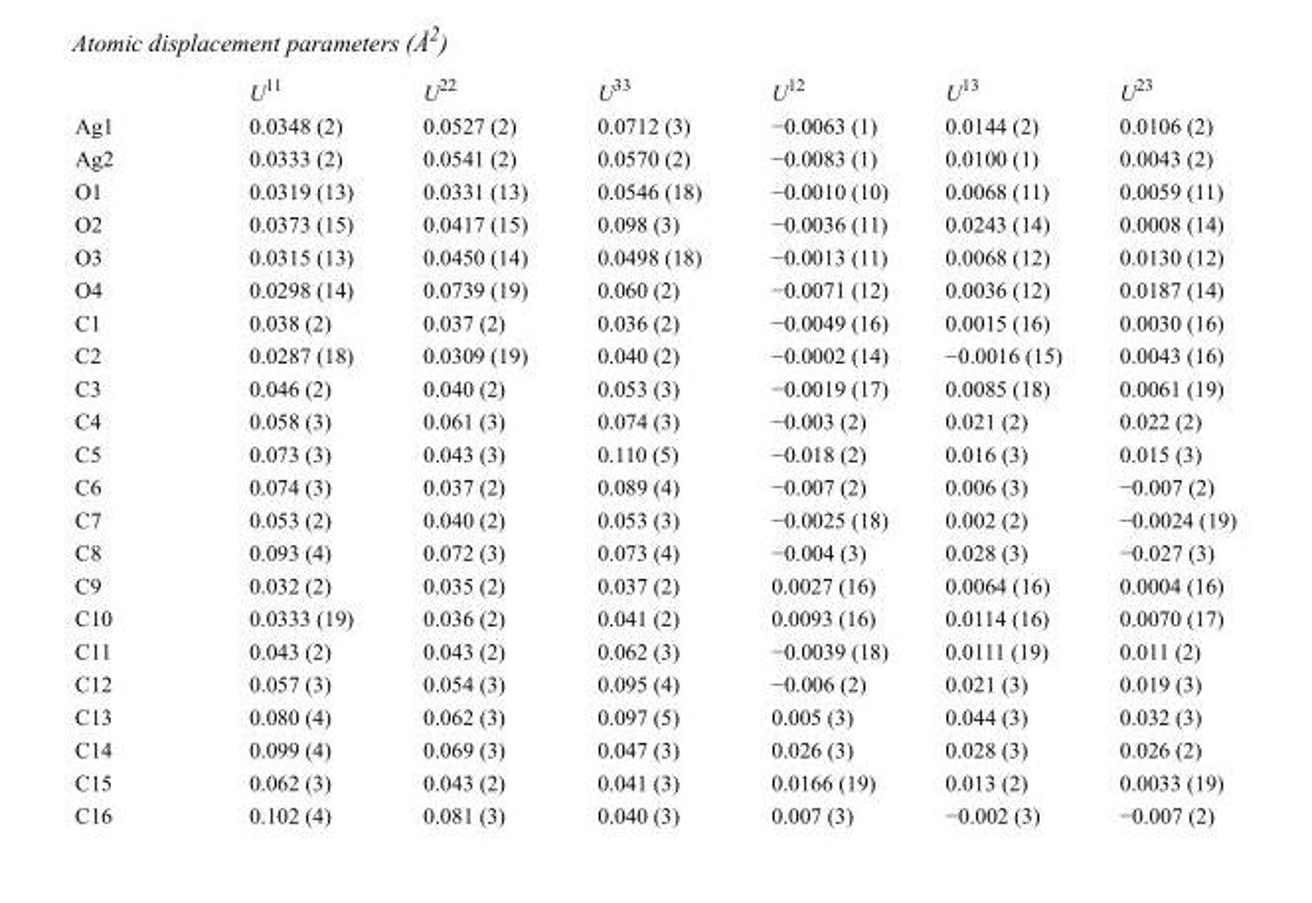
<table><thead><tr><td></td><td>U<sup>11</sup></td><td>U<sup>22</sup></td><td>U<sup>33</sup></td><td>U<sup>12</sup></td><td>U<sup>13</sup></td><td>U<sup>23</sup></td></tr></thead><tbody><tr><td>Ag1</td><td>0.0348 (2)</td><td>0.0527 (2)</td><td>0.0712 (3)</td><td>−0.0063 (1)</td><td>0.0144 (2)</td><td>0.0106 (2)</td></tr><tr><td>Ag2</td><td>0.0333 (2)</td><td>0.0541 (2)</td><td>0.0570 (2)</td><td>−0.0083 (1)</td><td>0.0100 (1)</td><td>0.0043 (2)</td></tr><tr><td>O1</td><td>0.0319 (13)</td><td>0.0331 (13)</td><td>0.0546 (18)</td><td>−0.0010 (10)</td><td>0.0068 (11)</td><td>0.0059 (11)</td></tr><tr><td>O2</td><td>0.0373 (15)</td><td>0.0417 (15)</td><td>0.098 (3)</td><td>−0.0036 (11)</td><td>0.0243 (14)</td><td>0.0008 (14)</td></tr><tr><td>O3</td><td>0.0315 (13)</td><td>0.0450 (14)</td><td>0.0498 (18)</td><td>−0.0013 (11)</td><td>0.0068 (12)</td><td>0.0130 (12)</td></tr><tr><td>O4</td><td>0.0298 (14)</td><td>0.0739 (19)</td><td>0.060 (2)</td><td>−0.0071 (12)</td><td>0.0036 (12)</td><td>0.0187 (14)</td></tr><tr><td>C1</td><td>0.038 (2)</td><td>0.037 (2)</td><td>0.036 (2)</td><td>−0.0049 (16)</td><td>0.0015 (16)</td><td>0.0030 (16)</td></tr><tr><td>C2</td><td>0.0287 (18)</td><td>0.0309 (19)</td><td>0.040 (2)</td><td>−0.0002 (14)</td><td>−0.0016 (15)</td><td>0.0043 (16)</td></tr><tr><td>C3</td><td>0.046 (2)</td><td>0.040 (2)</td><td>0.053 (3)</td><td>−0.0019 (17)</td><td>0.0085 (18)</td><td>0.0061 (19)</td></tr><tr><td>C4</td><td>0.058 (3)</td><td>0.061 (3)</td><td>0.074 (3)</td><td>−0.003 (2)</td><td>0.021 (2)</td><td>0.022 (2)</td></tr><tr><td>C5</td><td>0.073 (3)</td><td>0.043 (3)</td><td>0.110 (5)</td><td>−0.018 (2)</td><td>0.016 (3)</td><td>0.015 (3)</td></tr><tr><td>C6</td><td>0.074 (3)</td><td>0.037 (2)</td><td>0.089 (4)</td><td>−0.007 (2)</td><td>0.006 (3)</td><td>−0.007 (2)</td></tr><tr><td>C7</td><td>0.053 (2)</td><td>0.040 (2)</td><td>0.053 (3)</td><td>−0.0025 (18)</td><td>0.002 (2)</td><td>−0.0024 (19)</td></tr><tr><td>C8</td><td>0.093 (4)</td><td>0.072 (3)</td><td>0.073 (4)</td><td>−0.004 (3)</td><td>0.028 (3)</td><td>−0.027 (3)</td></tr><tr><td>C9</td><td>0.032 (2)</td><td>0.035 (2)</td><td>0.037 (2)</td><td>0.0027 (16)</td><td>0.0064 (16)</td><td>0.0004 (16)</td></tr><tr><td>C10</td><td>0.0333 (19)</td><td>0.036 (2)</td><td>0.041 (2)</td><td>0.0093 (16)</td><td>0.0114 (16)</td><td>0.0070 (17)</td></tr><tr><td>C11</td><td>0.043 (2)</td><td>0.043 (2)</td><td>0.062 (3)</td><td>−0.0039 (18)</td><td>0.0111 (19)</td><td>0.011 (2)</td></tr><tr><td>C12</td><td>0.057 (3)</td><td>0.054 (3)</td><td>0.095 (4)</td><td>−0.006 (2)</td><td>0.021 (3)</td><td>0.019 (3)</td></tr><tr><td>C13</td><td>0.080 (4)</td><td>0.062 (3)</td><td>0.097 (5)</td><td>0.005 (3)</td><td>0.044 (3)</td><td>0.032 (3)</td></tr><tr><td>C14</td><td>0.099 (4)</td><td>0.069 (3)</td><td>0.047 (3)</td><td>0.026 (3)</td><td>0.028 (3)</td><td>0.026 (2)</td></tr><tr><td>C15</td><td>0.062 (3)</td><td>0.043 (2)</td><td>0.041 (3)</td><td>0.0166 (19)</td><td>0.013 (2)</td><td>0.0033 (19)</td></tr><tr><td>C16</td><td>0.102 (4)</td><td>0.081 (3)</td><td>0.040 (3)</td><td>0.007 (3)</td><td>−0.002 (3)</td><td>−0.007 (2)</td></tr></tbody></table>